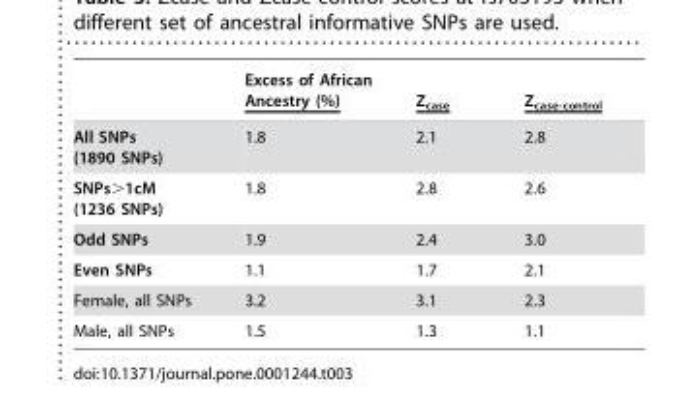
<table><thead><tr><td></td><td>Excess of African Ancestry (%)</td><td>Z<sub>case</sub></td><td>Z<sub>case-control</sub></td></tr></thead><tbody><tr><td>All SNPs (1890 SNPs)</td><td>1.8</td><td>2.1</td><td>2.8</td></tr><tr><td>SNPs&gt;1cM (1236 SNPs)</td><td>1.8</td><td>2.8</td><td>2.6</td></tr><tr><td>Odd SNPs</td><td>1.9</td><td>2.4</td><td>3.0</td></tr><tr><td>Even SNPs</td><td>1.1</td><td>1.7</td><td>2.1</td></tr><tr><td>Female, all SNPs</td><td>3.2</td><td>3.1</td><td>2.3</td></tr><tr><td>Male, all SNPs</td><td>1.5</td><td>1.3</td><td>1.1</td></tr></tbody></table>